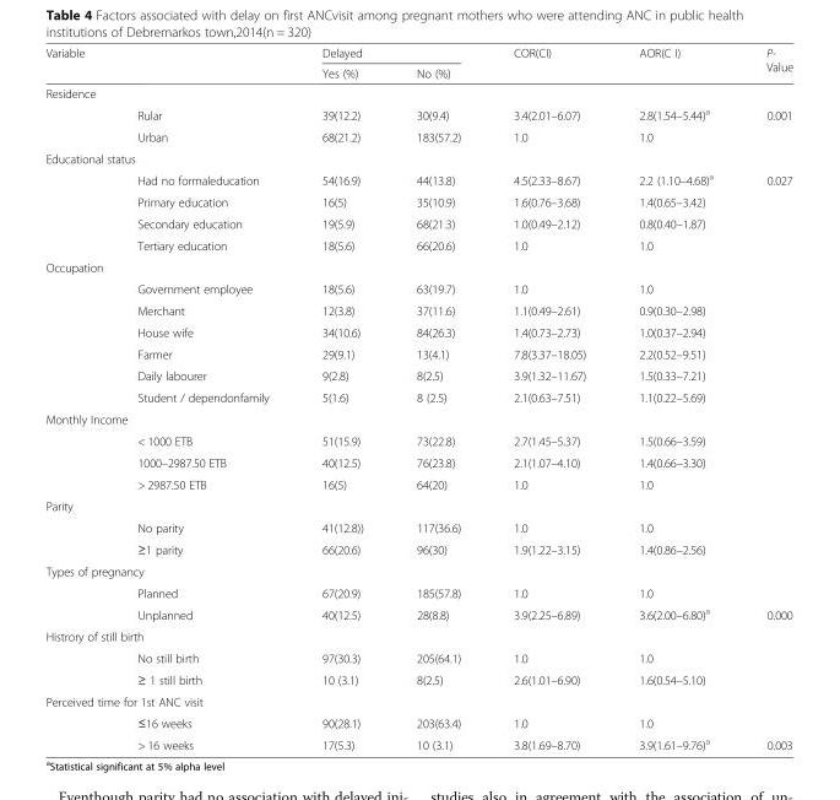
<table><thead><tr><td rowspan="2">Variable</td><td rowspan="2"></td><td colspan="2">Delayed</td><td rowspan="2">COR(CI)</td><td rowspan="2">AOR(C I)</td><td rowspan="2">P- Value</td></tr><tr><td>Yes (%)</td><td>No (%)</td></tr></thead><tbody><tr><td colspan="7">Residence</td></tr><tr><td></td><td>Rular</td><td>39(12.2)</td><td>30(9.4)</td><td>3.4(2.01–6.07)</td><td>2.8(1.54–5.44)<sup>a</sup></td><td>0.001</td></tr><tr><td></td><td>Urban</td><td>68(21.2)</td><td>183(57.2)</td><td>1.0</td><td>1.0</td><td></td></tr><tr><td colspan="7">Educational status</td></tr><tr><td></td><td>Had no formaleducation</td><td>54(16.9)</td><td>44(13.8)</td><td>4.5(2.33–8.67)</td><td>2.2 (1.10–4.68)<sup>a</sup></td><td>0.027</td></tr><tr><td></td><td>Primary education</td><td>16(5)</td><td>35(10.9)</td><td>1.6(0.76–3.68)</td><td>1.4(0.65–3.42)</td><td></td></tr><tr><td></td><td>Secondary education</td><td>19(5.9)</td><td>68(21.3)</td><td>1.0(0.49–2.12)</td><td>0.8(0.40–1.87)</td><td></td></tr><tr><td></td><td>Tertiary education</td><td>18(5.6)</td><td>66(20.6)</td><td>1.0</td><td>1.0</td><td></td></tr><tr><td colspan="7">Occupation</td></tr><tr><td></td><td>Government employee</td><td>18(5.6)</td><td>63(19.7)</td><td>1.0</td><td>1.0</td><td></td></tr><tr><td></td><td>Merchant</td><td>12(3.8)</td><td>37(11.6)</td><td>1.1(0.49–2.61)</td><td>0.9(0.30–2.98)</td><td></td></tr><tr><td></td><td>House wife</td><td>34(10.6)</td><td>84(26.3)</td><td>1.4(0.73–2.73)</td><td>1.0(0.37–2.94)</td><td></td></tr><tr><td></td><td>Farmer</td><td>29(9.1)</td><td>13(4.1)</td><td>7.8(3.37–18.05)</td><td>2.2(0.52–9.51)</td><td></td></tr><tr><td></td><td>Daily labourer</td><td>9(2.8)</td><td>8(2.5)</td><td>3.9(1.32–11.67)</td><td>1.5(0.33–7.21)</td><td></td></tr><tr><td></td><td>Student / dependonfamily</td><td>5(1.6)</td><td>8 (2.5)</td><td>2.1(0.63–7.51)</td><td>1.1(0.22–5.69)</td><td></td></tr><tr><td colspan="7">Monthly Income</td></tr><tr><td></td><td>&lt; 1000 ETB</td><td>51(15.9)</td><td>73(22.8)</td><td>2.7(1.45–5.37)</td><td>1.5(0.66–3.59)</td><td></td></tr><tr><td></td><td>1000–2987.50 ETB</td><td>40(12.5)</td><td>76(23.8)</td><td>2.1(1.07–4.10)</td><td>1.4(0.66–3.30)</td><td></td></tr><tr><td></td><td>&gt; 2987.50 ETB</td><td>16(5)</td><td>64(20)</td><td>1.0</td><td>1.0</td><td></td></tr><tr><td colspan="7">Parity</td></tr><tr><td></td><td>No parity</td><td>41(12.8))</td><td>117(36.6)</td><td>1.0</td><td>1.0</td><td></td></tr><tr><td></td><td>≥1 parity</td><td>66(20.6)</td><td>96(30)</td><td>1.9(1.22–3.15)</td><td>1.4(0.86–2.56)</td><td></td></tr><tr><td colspan="7">Types of pregnancy</td></tr><tr><td></td><td>Planned</td><td>67(20.9)</td><td>185(57.8)</td><td>1.0</td><td>1.0</td><td></td></tr><tr><td></td><td>Unplanned</td><td>40(12.5)</td><td>28(8.8)</td><td>3.9(2.25–6.89)</td><td>3.6(2.00–6.80)<sup>a</sup></td><td>0.000</td></tr><tr><td colspan="7">Histrory of still birth</td></tr><tr><td></td><td>No still birth</td><td>97(30.3)</td><td>205(64.1)</td><td>1.0</td><td>1.0</td><td></td></tr><tr><td></td><td>≥ 1 still birth</td><td>10 (3.1)</td><td>8(2.5)</td><td>2.6(1.01–6.90)</td><td>1.6(0.54–5.10)</td><td></td></tr><tr><td colspan="7">Perceived time for 1st ANC visit</td></tr><tr><td></td><td>≤16 weeks</td><td>90(28.1)</td><td>203(63.4)</td><td>1.0</td><td>1.0</td><td></td></tr><tr><td></td><td>&gt; 16 weeks</td><td>17(5.3)</td><td>10 (3.1)</td><td>3.8(1.69–8.70)</td><td>3.9(1.61–9.76)<sup>a</sup></td><td>0.003</td></tr></tbody></table>